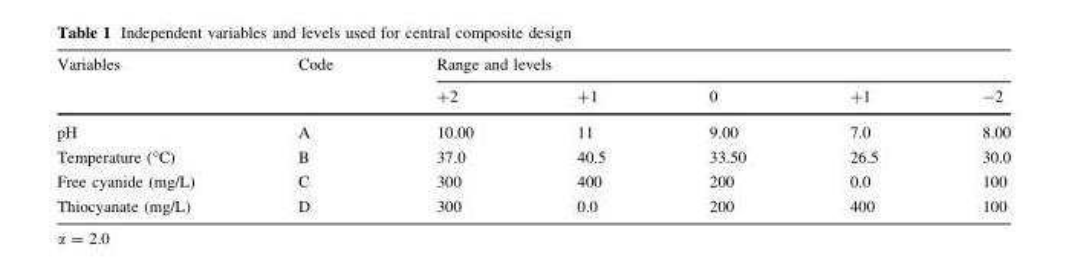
<table><thead><tr><td rowspan="2">Variables</td><td rowspan="2">Code</td><td colspan="5">Range and levels</td></tr><tr><td>+2</td><td>+1</td><td>0</td><td>+1</td><td>-2</td></tr></thead><tbody><tr><td>pH</td><td>A</td><td>10.00</td><td>11</td><td>9.00</td><td>7.0</td><td>8.00</td></tr><tr><td>Temperature (°C)</td><td>B</td><td>37.0</td><td>40.5</td><td>33.50</td><td>26.5</td><td>30.0</td></tr><tr><td>Free cyanide (mg/L)</td><td>C</td><td>300</td><td>400</td><td>200</td><td>0.0</td><td>100</td></tr><tr><td>Thiocyanate (mg/L)</td><td>D</td><td>300</td><td>0.0</td><td>200</td><td>400</td><td>100</td></tr></tbody></table>